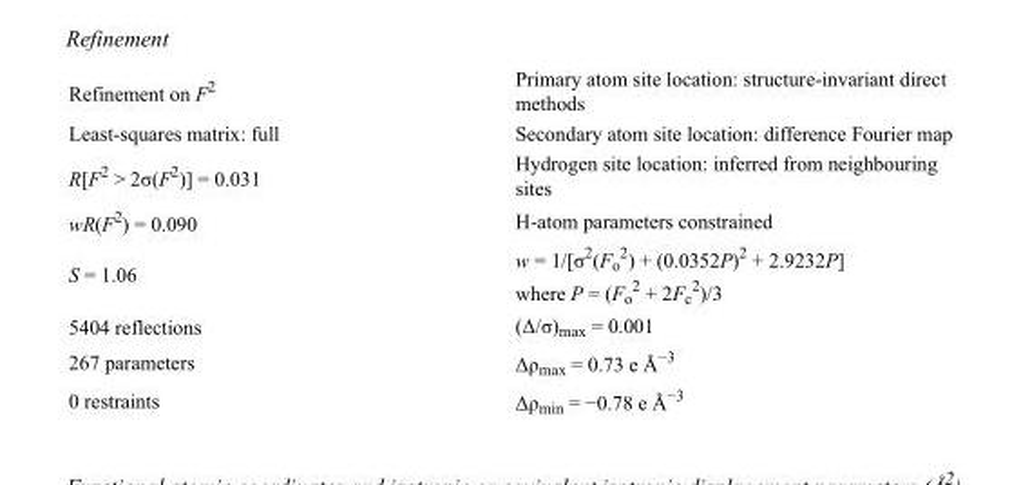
<table><tbody><tr><td>Refinement on F<sup>2</sup></td><td>Primary atom site location: structure-invariant direct methods</td></tr><tr><td>Least-squares matrix: full</td><td>Secondary atom site location: difference Fourier map</td></tr><tr><td>R[F<sup>2</sup> &gt; 2σ(F<sup>2</sup>)] = 0.031</td><td>Hydrogen site location: inferred from neighbouring sites</td></tr><tr><td>wR(F<sup>2</sup>) = 0.090</td><td>H-atom parameters constrained</td></tr><tr><td>S = 1.06</td><td>w = 1/[σ<sup>2</sup>(F<sub>o</sub> <sup>2</sup>) + (0.0352P)<sup>2</sup> + 2.9232P] where P = (F<sub>o</sub> <sup>2</sup> + 2F<sub>c</sub> <sup>2</sup>)/3</td></tr><tr><td>5404 reflections</td><td>(Δ/σ)<sub>max</sub> = 0.001</td></tr><tr><td>267 parameters</td><td>Δρ<sub>max</sub> = 0.73 e Å<sup>−3</sup></td></tr><tr><td>0 restraints</td><td>Δρ<sub>min</sub> = −0.78 e Å<sup>−3</sup></td></tr></tbody></table>